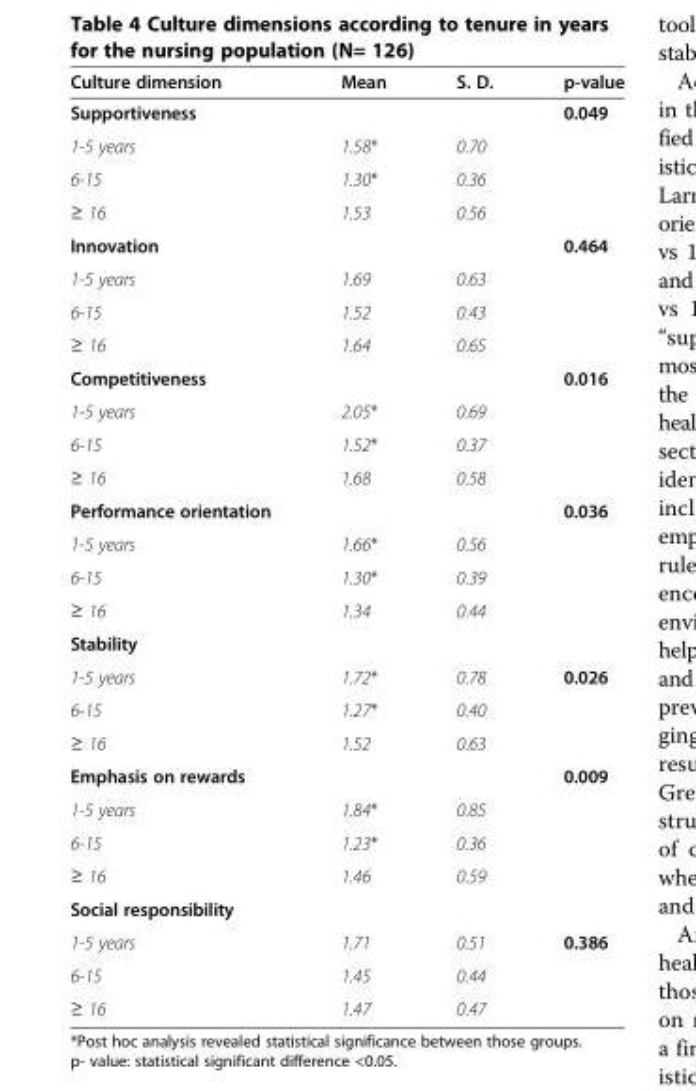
<table><thead><tr><td>Culture dimension</td><td>Mean</td><td>S. D.</td><td>p-value</td></tr></thead><tbody><tr><td>Supportiveness</td><td></td><td></td><td>0.049</td></tr><tr><td>1-5 years</td><td>1.58*</td><td>0.70</td><td></td></tr><tr><td>6-15</td><td>1.30*</td><td>0.36</td><td></td></tr><tr><td>≥ 16</td><td>1.53</td><td>0.56</td><td></td></tr><tr><td>Innovation</td><td></td><td></td><td>0.464</td></tr><tr><td>1-5 years</td><td>1.69</td><td>0.63</td><td></td></tr><tr><td>6-15</td><td>1.52</td><td>0.43</td><td></td></tr><tr><td>≥ 16</td><td>1.64</td><td>0.65</td><td></td></tr><tr><td>Competitiveness</td><td></td><td></td><td>0.016</td></tr><tr><td>1-5 years</td><td>2.05*</td><td>0.69</td><td></td></tr><tr><td>6-15</td><td>1.52*</td><td>0.37</td><td></td></tr><tr><td>≥ 16</td><td>1.68</td><td>0.58</td><td></td></tr><tr><td>Performance orientation</td><td></td><td></td><td>0.036</td></tr><tr><td>1-5 years</td><td>1.66*</td><td>0.56</td><td></td></tr><tr><td>6-15</td><td>1.30*</td><td>0.39</td><td></td></tr><tr><td>≥ 16</td><td>1.34</td><td>0.44</td><td></td></tr><tr><td colspan="4">Stability</td></tr><tr><td>1-5 years</td><td>1.72*</td><td>0.78</td><td>0.026</td></tr><tr><td>6-15</td><td>1.27*</td><td>0.40</td><td></td></tr><tr><td>≥ 16</td><td>1.52</td><td>0.63</td><td></td></tr><tr><td>Emphasis on rewards</td><td></td><td></td><td>0.009</td></tr><tr><td>1-5 years</td><td>1.84*</td><td>0.85</td><td></td></tr><tr><td>6-15</td><td>1.23*</td><td>0.36</td><td></td></tr><tr><td>≥ 16</td><td>1.46</td><td>0.59</td><td></td></tr><tr><td colspan="4">Social responsibility</td></tr><tr><td>1-5 years</td><td>1.71</td><td>0.51</td><td>0.386</td></tr><tr><td>6-15</td><td>1.45</td><td>0.44</td><td></td></tr><tr><td>≥ 16</td><td>1.47</td><td>0.47</td><td></td></tr></tbody></table>